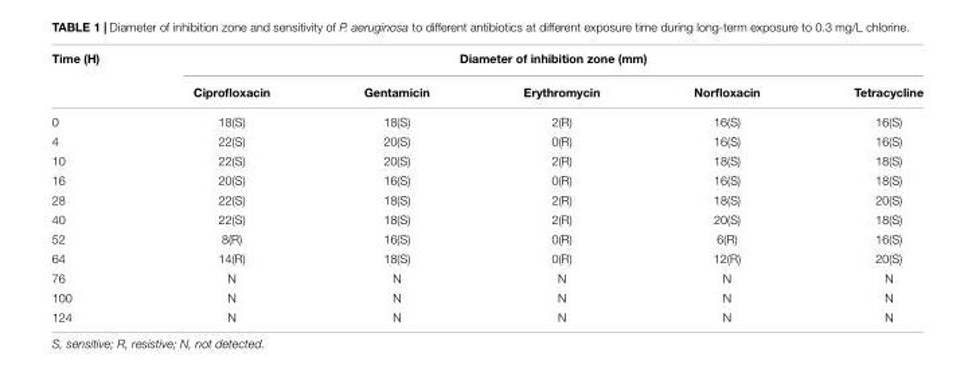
<table><thead><tr><td rowspan="2">Time (H)</td><td colspan="5">Diameter of inhibition zone (mm)</td></tr><tr><td>Ciprofloxacin</td><td>Gentamicin</td><td>Erythromycin</td><td>Norfloxacin</td><td>Tetracycline</td></tr></thead><tbody><tr><td>0</td><td>18(S)</td><td>18(S)</td><td>2(R)</td><td>16(S)</td><td>16(S)</td></tr><tr><td>4</td><td>22(S)</td><td>20(S)</td><td>0(R)</td><td>16(S)</td><td>16(S)</td></tr><tr><td>10</td><td>22(S)</td><td>20(S)</td><td>2(R)</td><td>18(S)</td><td>18(S)</td></tr><tr><td>16</td><td>20(S)</td><td>16(S)</td><td>0(R)</td><td>16(S)</td><td>18(S)</td></tr><tr><td>28</td><td>22(S)</td><td>18(S)</td><td>2(R)</td><td>18(S)</td><td>20(S)</td></tr><tr><td>40</td><td>22(S)</td><td>18(S)</td><td>2(R)</td><td>20(S)</td><td>18(S)</td></tr><tr><td>52</td><td>8(R)</td><td>16(S)</td><td>0(R)</td><td>6(R)</td><td>16(S)</td></tr><tr><td>64</td><td>14(R)</td><td>18(S)</td><td>0(R)</td><td>12(R)</td><td>20(S)</td></tr><tr><td>76</td><td>N</td><td>N</td><td>N</td><td>N</td><td>N</td></tr><tr><td>100</td><td>N</td><td>N</td><td>N</td><td>N</td><td>N</td></tr><tr><td>124</td><td>N</td><td>N</td><td>N</td><td>N</td><td>N</td></tr></tbody></table>